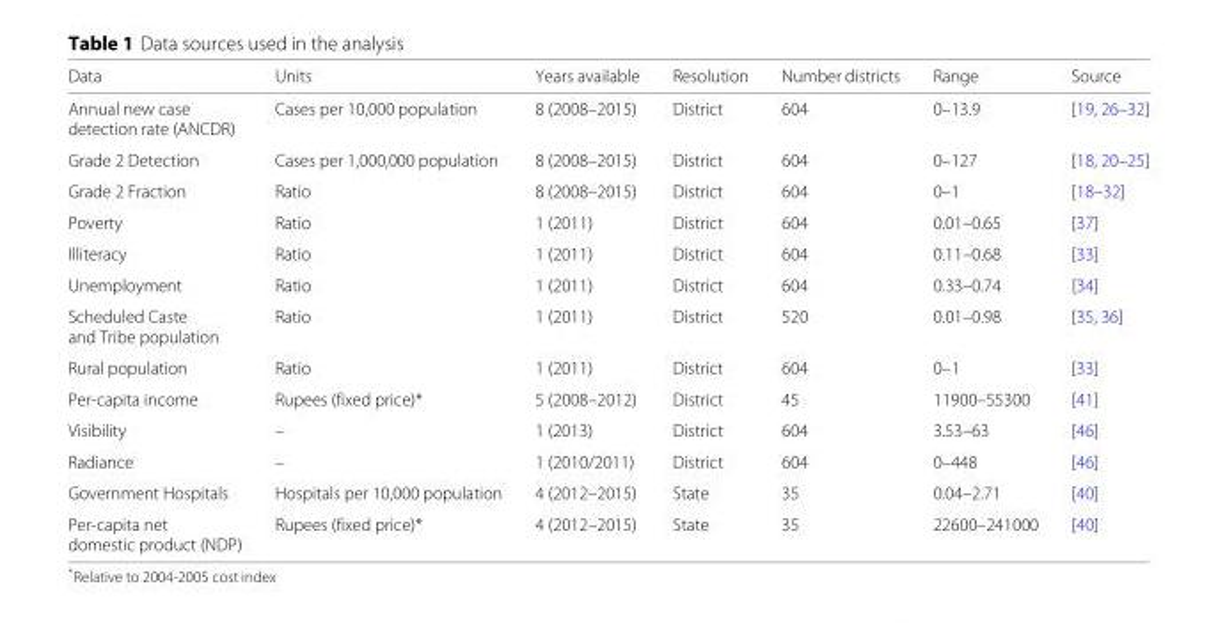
<table><thead><tr><td>Data</td><td>Units</td><td>Years available</td><td>Resolution</td><td>Number districts</td><td>Range</td><td>Source</td></tr></thead><tbody><tr><td>Annual new case</td><td>Cases per 10,000 population</td><td>8 (2008–2015)</td><td>District</td><td>604</td><td>0–13.9</td><td>[19, 26–32]</td></tr><tr><td colspan="7">detection rate (ANCDR)</td></tr><tr><td>Grade 2 Detection</td><td>Cases per 1,000,000 population</td><td>8 (2008–2015)</td><td>District</td><td>604</td><td>0–127</td><td>[18, 20–25]</td></tr><tr><td>Grade 2 Fraction</td><td>Ratio</td><td>8 (2008–2015)</td><td>District</td><td>604</td><td>0–1</td><td>[18–32]</td></tr><tr><td>Poverty</td><td>Ratio</td><td>1 (2011)</td><td>District</td><td>604</td><td>0.01–0.65</td><td>[37]</td></tr><tr><td>Illiteracy</td><td>Ratio</td><td>1 (2011)</td><td>District</td><td>604</td><td>0.11–0.68</td><td>[33]</td></tr><tr><td>Unemployment</td><td>Ratio</td><td>1 (2011)</td><td>District</td><td>604</td><td>0.33–0.74</td><td>[34]</td></tr><tr><td>Scheduled Caste</td><td>Ratio</td><td>1 (2011)</td><td>District</td><td>520</td><td>0.01–0.98</td><td>[35, 36]</td></tr><tr><td colspan="7">and Tribe population</td></tr><tr><td>Rural population</td><td>Ratio</td><td>1 (2011)</td><td>District</td><td>604</td><td>0–1</td><td>[33]</td></tr><tr><td>Per-capita income</td><td>Rupees (fixed price)*</td><td>5 (2008–2012)</td><td>District</td><td>45</td><td>11900–55300</td><td>[41]</td></tr><tr><td>Visibility</td><td>–</td><td>1 (2013)</td><td>District</td><td>604</td><td>3.53–63</td><td>[46]</td></tr><tr><td>Radiance</td><td>–</td><td>1 (2010/2011)</td><td>District</td><td>604</td><td>0–448</td><td>[46]</td></tr><tr><td>Government Hospitals</td><td>Hospitals per 10,000 population</td><td>4 (2012–2015)</td><td>State</td><td>35</td><td>0.04–2.71</td><td>[40]</td></tr><tr><td>Per-capita net</td><td>Rupees (fixed price)*</td><td>4 (2012–2015)</td><td>State</td><td>35</td><td>22600–241000</td><td>[40]</td></tr><tr><td>domestic product (NDP)</td><td colspan="6"></td></tr></tbody></table>